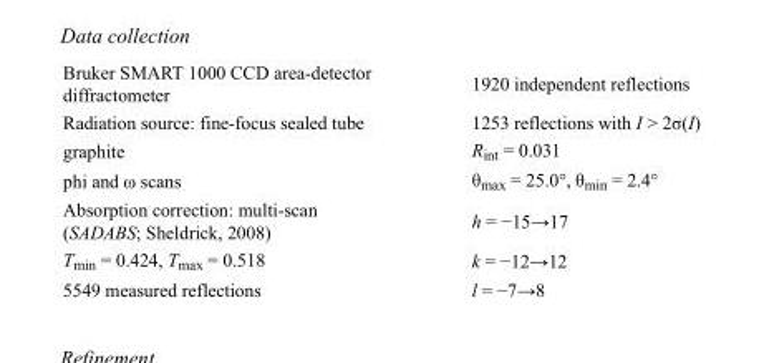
<table><tbody><tr><td>Bruker SMART 1000 CCD area-detector diffractometer</td><td>1920 independent reflections</td></tr><tr><td>Radiation source: fine-focus sealed tube</td><td>1253 reflections with I &gt; 2σ(I)</td></tr><tr><td>graphite</td><td>R<sub>int</sub> = 0.031</td></tr><tr><td>phi and ω scans</td><td>θ<sub>max</sub> = 25.0°, θ<sub>min</sub> = 2.4°</td></tr><tr><td>Absorption correction: multi-scan (SADABS; Sheldrick, 2008)</td><td>h = −15→17</td></tr><tr><td>T<sub>min</sub> = 0.424, T<sub>max</sub> = 0.518</td><td>k = −12→12</td></tr><tr><td>5549 measured reflections</td><td>l = −7→8</td></tr></tbody></table>